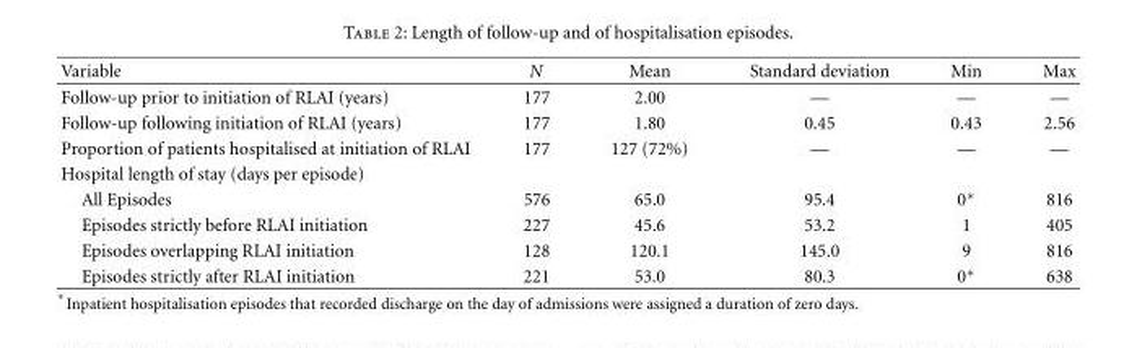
<table><thead><tr><td>Variable</td><td>N</td><td>Mean</td><td>Standard deviation</td><td>Min</td><td>Max</td></tr></thead><tbody><tr><td>Follow-up prior to initiation of RLAI (years)</td><td>177</td><td>2.00</td><td>—</td><td>—</td><td>—</td></tr><tr><td>Follow-up following initiation of RLAI (years)</td><td>177</td><td>1.80</td><td>0.45</td><td>0.43</td><td>2.56</td></tr><tr><td>Proportion of patients hospitalised at initiation of RLAI</td><td>177</td><td>127 (72%)</td><td>—</td><td>—</td><td>—</td></tr><tr><td colspan="6">Hospital length of stay (days per episode)</td></tr><tr><td>All Episodes</td><td>576</td><td>65.0</td><td>95.4</td><td>0∗</td><td>816</td></tr><tr><td>Episodes strictly before RLAI initiation</td><td>227</td><td>45.6</td><td>53.2</td><td>1</td><td>405</td></tr><tr><td>Episodes overlapping RLAI initiation</td><td>128</td><td>120.1</td><td>145.0</td><td>9</td><td>816</td></tr><tr><td>Episodes strictly after RLAI initiation</td><td>221</td><td>53.0</td><td>80.3</td><td>0∗</td><td>638</td></tr></tbody></table>